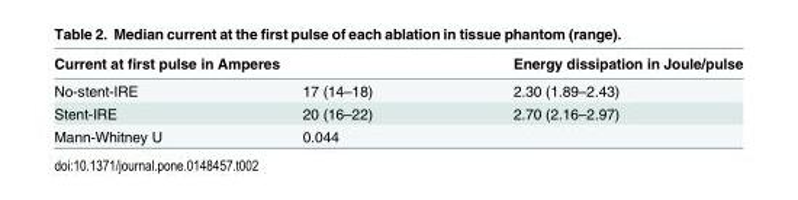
<table><thead><tr><td colspan="2">Current at first pulse in Amperes</td><td rowspan="2">Energy dissipation in Joule/pulse 2.30 (1.89–2.43)</td></tr><tr><td>No-stent-IRE</td><td>17 (14–18)</td></tr></thead><tbody><tr><td>Stent-IRE</td><td>20 (16–22)</td><td>2.70 (2.16–2.97)</td></tr><tr><td>Mann-Whitney U</td><td colspan="2">0.044</td></tr></tbody></table>